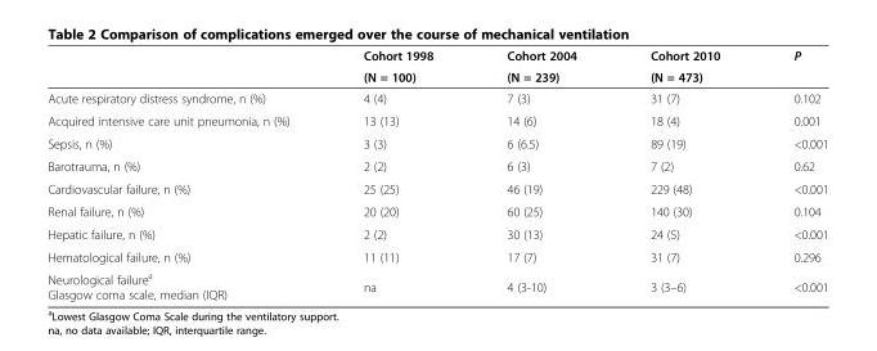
<table><thead><tr><td rowspan="2"></td><td rowspan="2">Cohort 1998 (N = 100)</td><td rowspan="2">Cohort 2004 (N = 239)</td><td rowspan="2">Cohort 2010 (N = 473)</td><td rowspan="2">P</td></tr><tr></tr></thead><tbody><tr><td>Acute respiratory distress syndrome, n (%)</td><td>4 (4)</td><td>7 (3)</td><td>31 (7)</td><td>0.102</td></tr><tr><td>Acquired intensive care unit pneumonia, n (%)</td><td>13 (13)</td><td>14 (6)</td><td>18 (4)</td><td>0.001</td></tr><tr><td>Sepsis, n (%)</td><td>3 (3)</td><td>6 (6.5)</td><td>89 (19)</td><td>&lt;0.001</td></tr><tr><td>Barotrauma, n (%)</td><td>2 (2)</td><td>6 (3)</td><td>7 (2)</td><td>0.62</td></tr><tr><td>Cardiovascular failure, n (%)</td><td>25 (25)</td><td>46 (19)</td><td>229 (48)</td><td>&lt;0.001</td></tr><tr><td>Renal failure, n (%)</td><td>20 (20)</td><td>60 (25)</td><td>140 (30)</td><td>0.104</td></tr><tr><td>Hepatic failure, n (%)</td><td>2 (2)</td><td>30 (13)</td><td>24 (5)</td><td>&lt;0.001</td></tr><tr><td>Hematological failure, n (%)</td><td>11 (11)</td><td>17 (7)</td><td>31 (7)</td><td>0.296</td></tr><tr><td>Neurological failure<sup>a</sup> Glasgow coma scale, median (IQR)</td><td>na</td><td>4 (3-10)</td><td>3 (3–6)</td><td>&lt;0.001</td></tr></tbody></table>